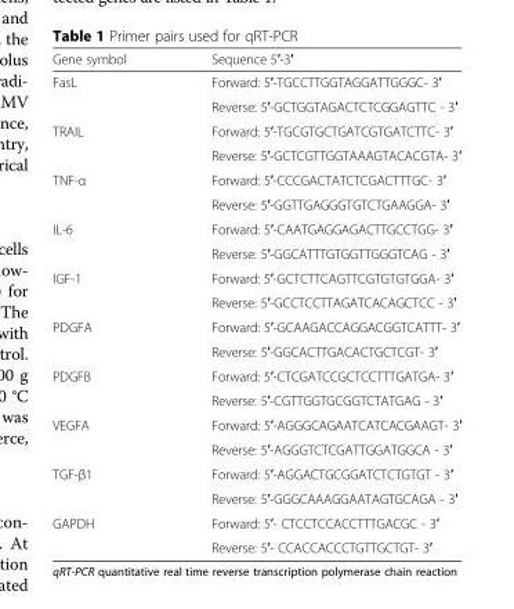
<table><thead><tr><td>Gene symbol</td><td>Sequence 5′-3′</td></tr></thead><tbody><tr><td rowspan="2">FasL</td><td>Forward: 5′-TGCCTTGGTAGGATTGGGC- 3′</td></tr><tr><td>Reverse: 5′-GCTGGTAGACTCTCGGAGTTC - 3′</td></tr><tr><td rowspan="2">TRAIL</td><td>Forward: 5′-TGCGTGCTGATCGTGATCTTC- 3′</td></tr><tr><td>Reverse: 5′-GCTCGTTGGTAAAGTACACGTA- 3′</td></tr><tr><td rowspan="2">TNF-α</td><td>Forward: 5′-CCCGACTATCTCGACTTTGC- 3′</td></tr><tr><td>Reverse: 5′-GGTTGAGGGTGTCTGAAGGA- 3′</td></tr><tr><td rowspan="2">IL-6</td><td>Forward: 5′-CAATGAGGAGACTTGCCTGG- 3′</td></tr><tr><td>Reverse: 5′-GGCATTTGTGGTTGGGTCAG - 3′</td></tr><tr><td rowspan="2">IGF-1</td><td>Forward: 5′-GCTCTTCAGTTCGTGTGTGGA- 3′</td></tr><tr><td>Reverse: 5′-GCCTCCTTAGATCACAGCTCC - 3′</td></tr><tr><td rowspan="2">PDGFA</td><td>Forward: 5′-GCAAGACCAGGACGGTCATTT- 3′</td></tr><tr><td>Reverse: 5′-GGCACTTGACACTGCTCGT- 3′</td></tr><tr><td rowspan="2">PDGFB</td><td>Forward: 5′-CTCGATCCGCTCCTTTGATGA- 3′</td></tr><tr><td>Reverse: 5′-CGTTGGTGCGGTCTATGAG - 3′</td></tr><tr><td rowspan="2">VEGFA</td><td>Forward: 5′-AGGGCAGAATCATCACGAAGT- 3′</td></tr><tr><td>Reverse: 5′-AGGGTCTCGATTGGATGGCA - 3′</td></tr><tr><td rowspan="2">TGF-β1</td><td>Forward: 5′-AGGACTGCGGATCTCTGTGT - 3′</td></tr><tr><td>Reverse: 5′-GGGCAAAGGAATAGTGCAGA - 3′</td></tr><tr><td rowspan="2">GAPDH</td><td>Forward: 5′- CTCCTCCACCTTTGACGC - 3′</td></tr><tr><td>Reverse: 5′- CCACCACCCTGTTGCTGT- 3′</td></tr></tbody></table>